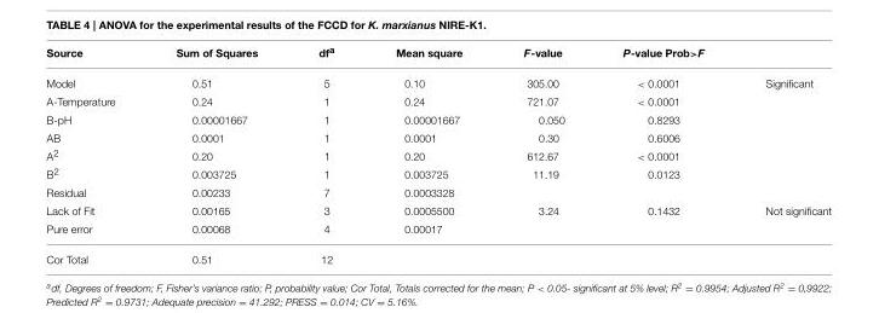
<table><thead><tr><td>Source</td><td>Sum of Squares</td><td>df<sup>a</sup></td><td>Mean square</td><td>F-value</td><td>P-value Prob&gt;F</td><td></td></tr></thead><tbody><tr><td>Model</td><td>0.51</td><td>5</td><td>0.10</td><td>305.00</td><td>&lt; 0.0001</td><td>Significant</td></tr><tr><td>A-Temperature</td><td>0.24</td><td>1</td><td>0.24</td><td>721.07</td><td>&lt; 0.0001</td><td></td></tr><tr><td>B-pH</td><td>0.00001667</td><td>1</td><td>0.00001667</td><td>0.050</td><td>0.8293</td><td></td></tr><tr><td>AB</td><td>0.0001</td><td>1</td><td>0.0001</td><td>0.30</td><td>0.6006</td><td></td></tr><tr><td>A<sup>2</sup></td><td>0.20</td><td>1</td><td>0.20</td><td>612.67</td><td>&lt; 0.0001</td><td></td></tr><tr><td>B<sup>2</sup></td><td>0.003725</td><td>1</td><td>0.003725</td><td>11.19</td><td>0.0123</td><td></td></tr><tr><td>Residual</td><td>0.00233</td><td>7</td><td>0.0003328</td><td></td><td></td><td></td></tr><tr><td>Lack of Fit</td><td>0.00165</td><td>3</td><td>0.0005500</td><td>3.24</td><td>0.1432</td><td>Not significant</td></tr><tr><td>Pure error</td><td>0.00068</td><td>4</td><td>0.00017</td><td></td><td></td><td></td></tr><tr><td>Cor Total</td><td>0.51</td><td>12</td><td></td><td></td><td></td><td></td></tr></tbody></table>